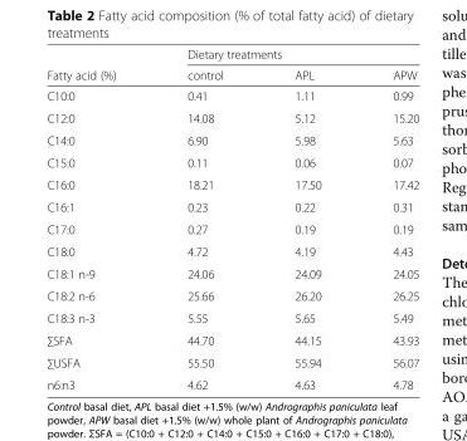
<table><thead><tr><td rowspan="2">Fatty acid (%)</td><td colspan="3">Dietary treatments</td></tr><tr><td>control</td><td>APL</td><td>APW</td></tr></thead><tbody><tr><td>C10:0</td><td>0.41</td><td>1.11</td><td>0.99</td></tr><tr><td>C12:0</td><td>14.08</td><td>5.12</td><td>15.20</td></tr><tr><td>C14:0</td><td>6.90</td><td>5.98</td><td>5.63</td></tr><tr><td>C15:0</td><td>0.11</td><td>0.06</td><td>0.07</td></tr><tr><td>C16:0</td><td>18.21</td><td>17.50</td><td>17.42</td></tr><tr><td>C16:1</td><td>0.23</td><td>0.22</td><td>0.31</td></tr><tr><td>C17:0</td><td>0.27</td><td>0.19</td><td>0.19</td></tr><tr><td>C18:0</td><td>4.72</td><td>4.19</td><td>4.43</td></tr><tr><td>C18:1 n-9</td><td>24.06</td><td>24.09</td><td>24.05</td></tr><tr><td>C18:2 n-6</td><td>25.66</td><td>26.20</td><td>26.25</td></tr><tr><td>C18:3 n-3</td><td>5.55</td><td>5.65</td><td>5.49</td></tr><tr><td>∑SFA</td><td>44.70</td><td>44.15</td><td>43.93</td></tr><tr><td>∑USFA</td><td>55.50</td><td>55.94</td><td>56.07</td></tr><tr><td>n6:n3</td><td>4.62</td><td>4.63</td><td>4.78</td></tr></tbody></table>